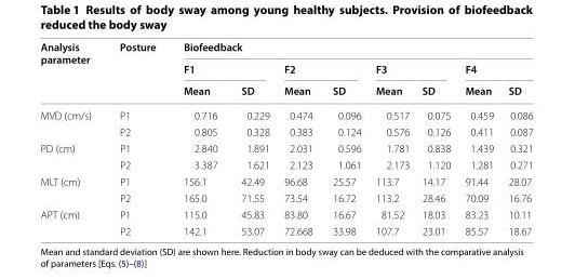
<table><thead><tr><td rowspan="3">Analysis parameter</td><td rowspan="3">Posture</td><td colspan="8">Biofeedback</td></tr><tr><td colspan="2">F1</td><td colspan="2">F2</td><td colspan="2">F3</td><td colspan="2">F4</td></tr><tr><td>Mean</td><td>SD</td><td>Mean</td><td>SD</td><td>Mean</td><td>SD</td><td>Mean</td><td>SD</td></tr></thead><tbody><tr><td rowspan="2">MVD (cm/s)</td><td>P1</td><td>0.716</td><td>0.229</td><td>0.474</td><td>0.096</td><td>0.517</td><td>0.075</td><td>0.459</td><td>0.086</td></tr><tr><td>P2</td><td>0.805</td><td>0.328</td><td>0.383</td><td>0.124</td><td>0.576</td><td>0.126</td><td>0.411</td><td>0.087</td></tr><tr><td rowspan="2">PD (cm)</td><td>P1</td><td>2.840</td><td>1.891</td><td>2.031</td><td>0.596</td><td>1.781</td><td>0.838</td><td>1.439</td><td>0.321</td></tr><tr><td>P2</td><td>3.387</td><td>1.621</td><td>2.123</td><td>1.061</td><td>2.173</td><td>1.120</td><td>1.281</td><td>0.271</td></tr><tr><td rowspan="2">MLT (cm)</td><td>P1</td><td>156.1</td><td>42.49</td><td>96.68</td><td>25.57</td><td>113.7</td><td>14.17</td><td>91.44</td><td>28.07</td></tr><tr><td>P2</td><td>165.0</td><td>71.55</td><td>73.54</td><td>16.72</td><td>113.2</td><td>28.46</td><td>70.09</td><td>16.76</td></tr><tr><td rowspan="2">APT (cm)</td><td>P1</td><td>115.0</td><td>45.83</td><td>83.80</td><td>16.67</td><td>81.52</td><td>18.03</td><td>83.23</td><td>10.11</td></tr><tr><td>P2</td><td>142.1</td><td>53.07</td><td>72.668</td><td>33.98</td><td>107.7</td><td>23.01</td><td>85.57</td><td>18.67</td></tr></tbody></table>